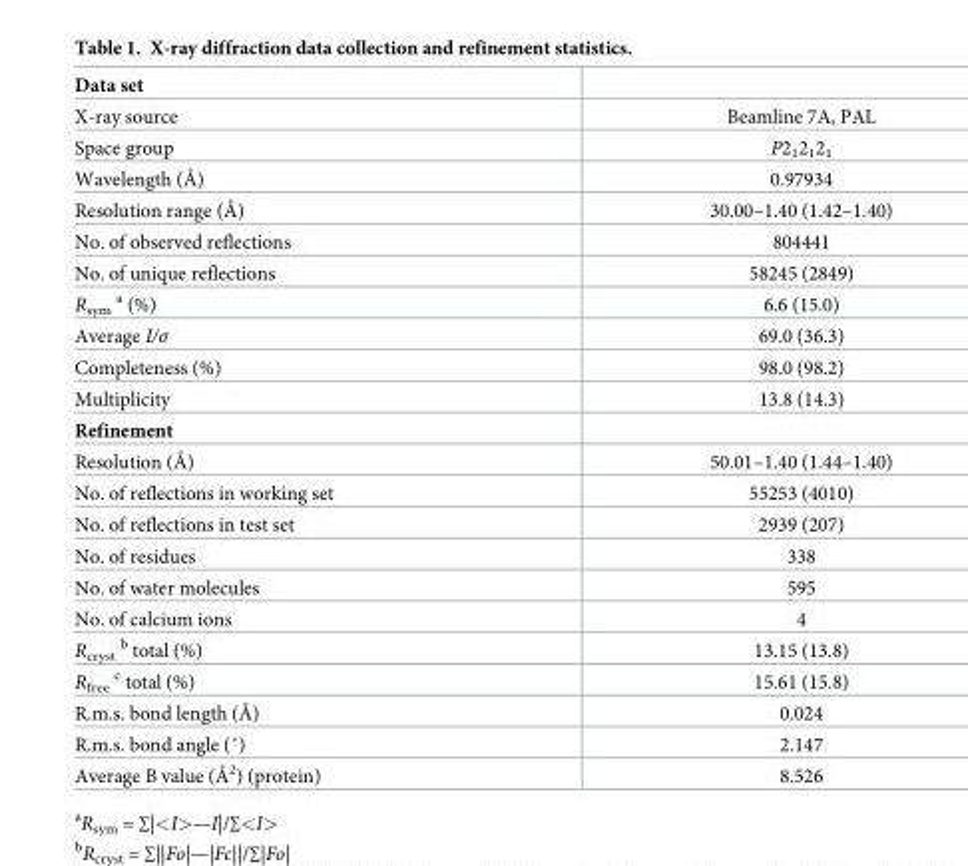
<table><tbody><tr><td colspan="2">Data set</td></tr><tr><td>X-ray source</td><td>Beamline 7A, PAL</td></tr><tr><td>Space group</td><td>P2<sub>1</sub>2<sub>1</sub>2<sub>1</sub></td></tr><tr><td>Wavelength (Å)</td><td>0.97934</td></tr><tr><td>Resolution range (Å)</td><td>30.00–1.40 (1.42–1.40)</td></tr><tr><td>No. of observed reflections</td><td>804441</td></tr><tr><td>No. of unique reflections</td><td>58245 (2849)</td></tr><tr><td>R<sub>sym</sub> <sup>a</sup> (%)</td><td>6.6 (15.0)</td></tr><tr><td>Average I/σ</td><td>69.0 (36.3)</td></tr><tr><td>Completeness (%)</td><td>98.0 (98.2)</td></tr><tr><td>Multiplicity</td><td>13.8 (14.3)</td></tr><tr><td colspan="2">Refinement</td></tr><tr><td>Resolution (Å)</td><td>50.01–1.40 (1.44–1.40)</td></tr><tr><td>No. of reflections in working set</td><td>55253 (4010)</td></tr><tr><td>No. of reflections in test set</td><td>2939 (207)</td></tr><tr><td>No. of residues</td><td>338</td></tr><tr><td>No. of water molecules</td><td>595</td></tr><tr><td>No. of calcium ions</td><td>4</td></tr><tr><td>R<sub>cryst</sub> <sup>b</sup> total (%)</td><td>13.15 (13.8)</td></tr><tr><td>R<sub>free</sub> <sup>c</sup> total (%)</td><td>15.61 (15.8)</td></tr><tr><td>R.m.s. bond length (Å)</td><td>0.024</td></tr><tr><td>R.m.s. bond angle (˚)</td><td>2.147</td></tr><tr><td>Average B value (Å<sup>2</sup>) (protein)</td><td>8.526</td></tr></tbody></table>